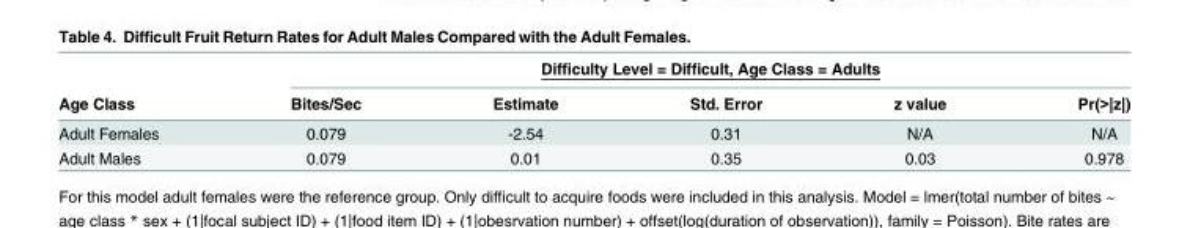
<table><thead><tr><td rowspan="2">Age Class</td><td colspan="5">Difficulty Level = Difficult, Age Class = Adults</td></tr><tr><td>Bites/Sec</td><td>Estimate</td><td>Std. Error</td><td>z value</td><td>Pr(&gt;|z|)</td></tr></thead><tbody><tr><td>Adult Females</td><td>0.079</td><td>-2.54</td><td>0.31</td><td>N/A</td><td>N/A</td></tr><tr><td>Adult Males</td><td>0.079</td><td>0.01</td><td>0.35</td><td>0.03</td><td>0.978</td></tr></tbody></table>